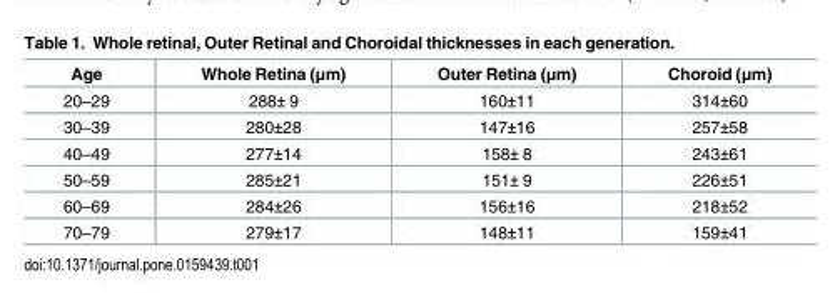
<table><thead><tr><td>Age</td><td>Whole Retina (μm)</td><td>Outer Retina (μm)</td><td>Choroid (μm)</td></tr></thead><tbody><tr><td>20–29</td><td>288± 9</td><td>160±11</td><td>314±60</td></tr><tr><td>30–39</td><td>280±28</td><td>147±16</td><td>257±58</td></tr><tr><td>40–49</td><td>277±14</td><td>158± 8</td><td>243±61</td></tr><tr><td>50–59</td><td>285±21</td><td>151± 9</td><td>226±51</td></tr><tr><td>60–69</td><td>284±26</td><td>156±16</td><td>218±52</td></tr><tr><td>70–79</td><td>279±17</td><td>148±11</td><td>159±41</td></tr></tbody></table>